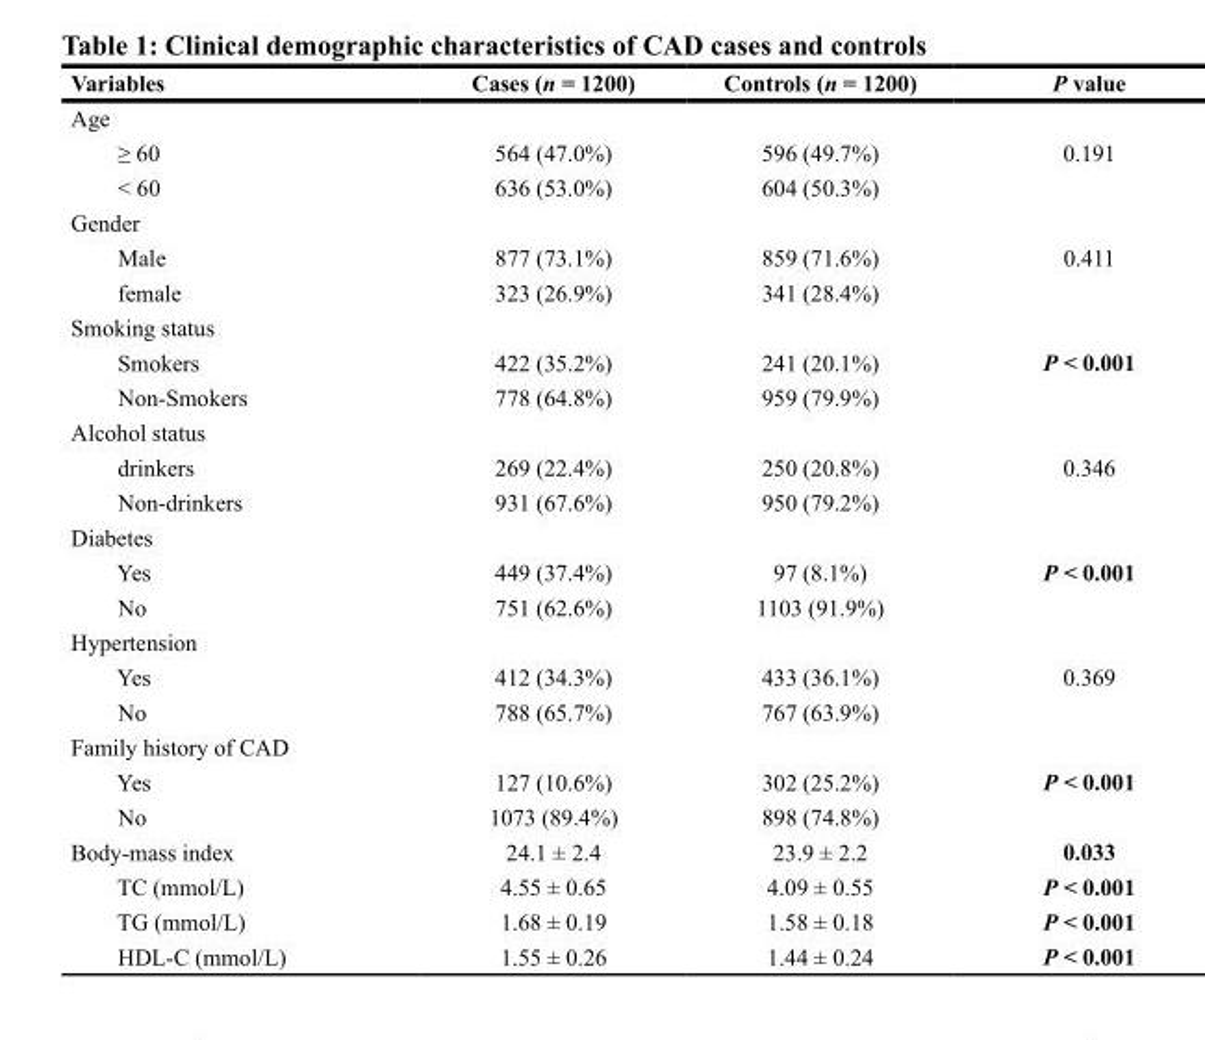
<table><thead><tr><td>Variables</td><td>Cases (n = 1200)</td><td>Controls (n = 1200)</td><td>P value</td></tr></thead><tbody><tr><td colspan="4">Age</td></tr><tr><td>≥ 60</td><td>564 (47.0%)</td><td>596 (49.7%)</td><td>0.191</td></tr><tr><td>&lt; 60</td><td>636 (53.0%)</td><td>604 (50.3%)</td><td></td></tr><tr><td colspan="4">Gender</td></tr><tr><td>Male</td><td>877 (73.1%)</td><td>859 (71.6%)</td><td>0.411</td></tr><tr><td>female</td><td>323 (26.9%)</td><td>341 (28.4%)</td><td></td></tr><tr><td colspan="4">Smoking status</td></tr><tr><td>Smokers</td><td>422 (35.2%)</td><td>241 (20.1%)</td><td>P &lt; 0.001</td></tr><tr><td>Non-Smokers</td><td>778 (64.8%)</td><td>959 (79.9%)</td><td></td></tr><tr><td colspan="4">Alcohol status</td></tr><tr><td>drinkers</td><td>269 (22.4%)</td><td>250 (20.8%)</td><td>0.346</td></tr><tr><td>Non-drinkers</td><td>931 (67.6%)</td><td>950 (79.2%)</td><td></td></tr><tr><td colspan="4">Diabetes</td></tr><tr><td>Yes</td><td>449 (37.4%)</td><td>97 (8.1%)</td><td>P &lt; 0.001</td></tr><tr><td>No</td><td>751 (62.6%)</td><td>1103 (91.9%)</td><td></td></tr><tr><td colspan="4">Hypertension</td></tr><tr><td>Yes</td><td>412 (34.3%)</td><td>433 (36.1%)</td><td>0.369</td></tr><tr><td>No</td><td>788 (65.7%)</td><td>767 (63.9%)</td><td></td></tr><tr><td colspan="4">Family history of CAD</td></tr><tr><td>Yes</td><td>127 (10.6%)</td><td>302 (25.2%)</td><td>P &lt; 0.001</td></tr><tr><td>No</td><td>1073 (89.4%)</td><td>898 (74.8%)</td><td></td></tr><tr><td>Body-mass index</td><td>24.1 ± 2.4</td><td>23.9 ± 2.2</td><td>0.033</td></tr><tr><td>TC (mmol/L)</td><td>4.55 ± 0.65</td><td>4.09 ± 0.55</td><td>P &lt; 0.001</td></tr><tr><td>TG (mmol/L)</td><td>1.68 ± 0.19</td><td>1.58 ± 0.18</td><td>P &lt; 0.001</td></tr><tr><td>HDL-C (mmol/L)</td><td>1.55 ± 0.26</td><td>1.44 ± 0.24</td><td>P &lt; 0.001</td></tr></tbody></table>